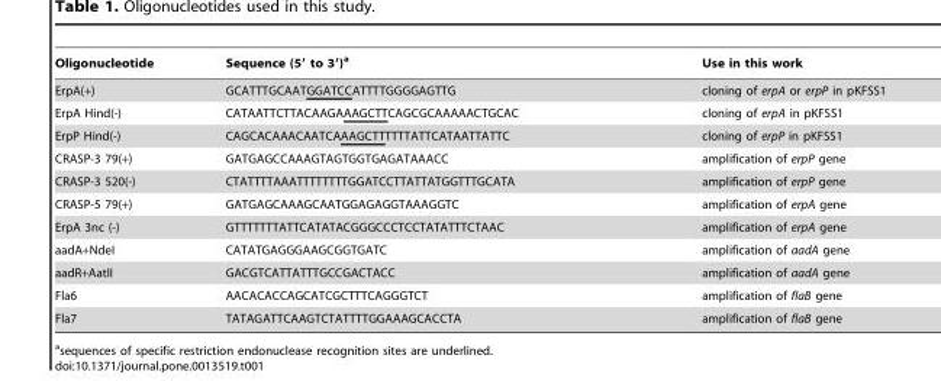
<table><thead><tr><td>Oligonucleotide</td><td>Sequence (5′ to 3′)<sup>a</sup></td><td>Use in this work</td></tr></thead><tbody><tr><td>ErpA(+)</td><td>GCATTTGCAATGGATCCATTTTGGGGAGTTG</td><td>cloning of erpA or erpP in pKFSS1</td></tr><tr><td>ErpA Hind(-)</td><td>CATAATTCTTACAAGAAAGCTTCAGCGCAAAAACTGCAC</td><td>cloning of erpA in pKFSS1</td></tr><tr><td>ErpP Hind(-)</td><td>CAGCACAAACAATCAAAGCTTTTTTATTCATAATTATTC</td><td>cloning of erpP in pKFSS1</td></tr><tr><td>CRASP-3 79(+)</td><td>GATGAGCCAAAGTAGTGGTGAGATAAACC</td><td>amplification of erpP gene</td></tr><tr><td>CRASP-3 520(-)</td><td>CTATTTTAAATTTTTTTTGGATCCTTATTATGGTTTGCATA</td><td>amplification of erpP gene</td></tr><tr><td>CRASP-5 79(+)</td><td>GATGAGCAAAGCAATGGAGAGGTAAAGGTC</td><td>amplification of erpA gene</td></tr><tr><td>ErpA 3nc (-)</td><td>GTTTTTTTATTCATATACGGGCCCTCCTATATTTCTAAC</td><td>amplification of erpA gene</td></tr><tr><td>aadA+NdeI</td><td>CATATGAGGGAAGCGGTGATC</td><td>amplification of aadA gene</td></tr><tr><td>aadR+AatII</td><td>GACGTCATTATTTGCCGACTACC</td><td>amplification of aadA gene</td></tr><tr><td>Fla6</td><td>AACACACCAGCATCGCTTTCAGGGTCT</td><td>amplification of flaB gene</td></tr><tr><td>Fla7</td><td>TATAGATTCAAGTCTATTTTGGAAAGCACCTA</td><td>amplification of flaB gene</td></tr></tbody></table>